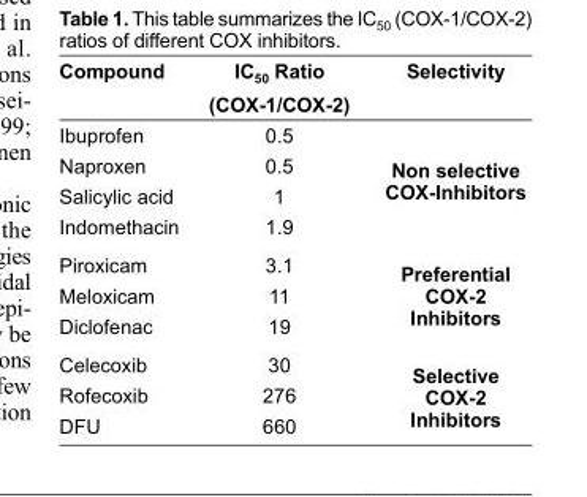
<table><thead><tr><td>Compound</td><td>IC<sub>50</sub> Ratio (COX-1/COX-2)</td><td>Selectivity</td></tr></thead><tbody><tr><td>Ibuprofen</td><td>0.5</td><td rowspan="4">Non selective COX-Inhibitors</td></tr><tr><td>Naproxen</td><td>0.5</td></tr><tr><td>Salicylic acid</td><td>1</td></tr><tr><td>Indomethacin</td><td>1.9</td></tr><tr><td>Piroxicam</td><td>3.1</td><td rowspan="3">Preferential COX-2 Inhibitors</td></tr><tr><td>Meloxicam</td><td>11</td></tr><tr><td>Diclofenac</td><td>19</td></tr><tr><td>Celecoxib</td><td>30</td><td rowspan="3">Selective COX-2 Inhibitors</td></tr><tr><td>Rofecoxib</td><td>276</td></tr><tr><td>DFU</td><td>660</td></tr></tbody></table>